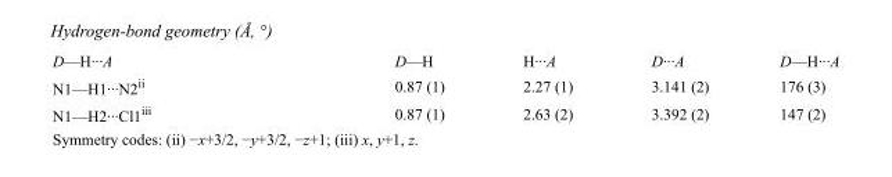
<table><tbody><tr><td>D—H···A</td><td>D—H</td><td>H···A</td><td>D···A</td><td>D—H···A</td></tr><tr><td>N1—H1···N2<sup>ii</sup></td><td>0.87 (1)</td><td>2.27 (1)</td><td>3.141 (2)</td><td>176 (3)</td></tr><tr><td>N1—H2···Cl1<sup>iii</sup></td><td>0.87 (1)</td><td>2.63 (2)</td><td>3.392 (2)</td><td>147 (2)</td></tr></tbody></table>